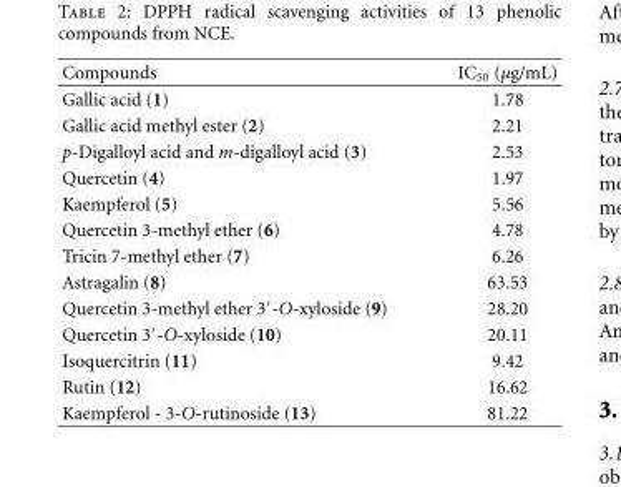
<table><thead><tr><td>Compounds</td><td>IC<sub>50</sub> (μg/mL)</td></tr></thead><tbody><tr><td>Gallic acid (1)</td><td>1.78</td></tr><tr><td>Gallic acid methyl ester (2)</td><td>2.21</td></tr><tr><td>p-Digalloyl acid and m-digalloyl acid (3)</td><td>2.53</td></tr><tr><td>Quercetin (4)</td><td>1.97</td></tr><tr><td>Kaempferol (5)</td><td>5.56</td></tr><tr><td>Quercetin 3-methyl ether (6)</td><td>4.78</td></tr><tr><td>Tricin 7-methyl ether (7)</td><td>6.26</td></tr><tr><td>Astragalin (8)</td><td>63.53</td></tr><tr><td>Quercetin 3-methyl ether 3′-O-xyloside (9)</td><td>28.20</td></tr><tr><td>Quercetin 3′-O-xyloside (10)</td><td>20.11</td></tr><tr><td>Isoquercitrin (11)</td><td>9.42</td></tr><tr><td>Rutin (12)</td><td>16.62</td></tr><tr><td>Kaempferol - 3-O-rutinoside (13)</td><td>81.22</td></tr></tbody></table>